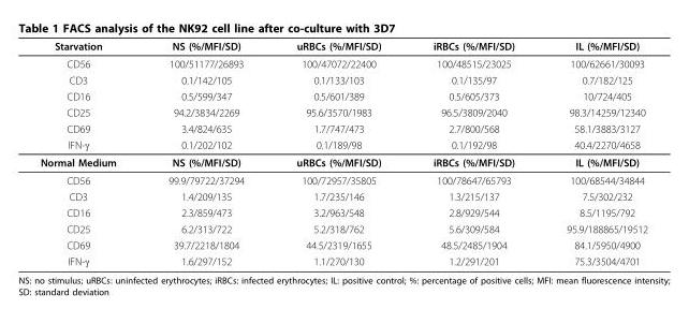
<table><thead><tr><td>Starvation</td><td>NS (%/MFI/SD)</td><td>uRBCs (%/MFI/SD)</td><td>iRBCs (%/MFI/SD)</td><td>IL (%/MFI/SD)</td></tr></thead><tbody><tr><td>CD56</td><td>100/51177/26893</td><td>100/47072/22400</td><td>100/48515/23025</td><td>100/62661/30093</td></tr><tr><td>CD3</td><td>0.1/142/105</td><td>0.1/133/103</td><td>0.1/135/97</td><td>0.7/182/125</td></tr><tr><td>CD16</td><td>0.5/599/347</td><td>0.5/601/389</td><td>0.5/605/373</td><td>10/724/405</td></tr><tr><td>CD25</td><td>94.2/3834/2269</td><td>95.6/3570/1983</td><td>96.5/3809/2040</td><td>98.3/14259/12340</td></tr><tr><td>CD69</td><td>3.4/824/635</td><td>1.7/747/473</td><td>2.7/800/568</td><td>58.1/3883/3127</td></tr><tr><td>IFN-γ</td><td>0.1/202/102</td><td>0.1/189/98</td><td>0.1/192/98</td><td>40.4/2270/4658</td></tr><tr><td>Normal Medium</td><td>NS (%/MFI/SD)</td><td>uRBCs (%/MFI/SD)</td><td>iRBCs (%/MFI/SD)</td><td>IL (%/MFI/SD)</td></tr><tr><td>CD56</td><td>99.9/79722/37294</td><td>100/72957/35805</td><td>100/78647/65793</td><td>100/68544/34844</td></tr><tr><td>CD3</td><td>1.4/209/135</td><td>1.7/235/146</td><td>1.3/215/137</td><td>7.5/302/232</td></tr><tr><td>CD16</td><td>2.3/859/473</td><td>3.2/963/548</td><td>2.8/929/544</td><td>8.5/1195/792</td></tr><tr><td>CD25</td><td>6.2/313/722</td><td>5.2/318/762</td><td>5.6/309/584</td><td>95.9/188865/19512</td></tr><tr><td>CD69</td><td>39.7/2218/1804</td><td>44.5/2319/1655</td><td>48.5/2485/1904</td><td>84.1/5950/4900</td></tr><tr><td>IFN-γ</td><td>1.6/297/152</td><td>1.1/270/130</td><td>1.2/291/201</td><td>75.3/3504/4701</td></tr></tbody></table>